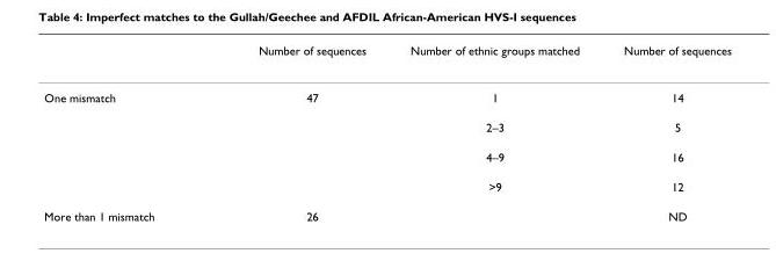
<table><thead><tr><td></td><td>Number of sequences</td><td>Number of ethnic groups matched</td><td>Number of sequences</td></tr></thead><tbody><tr><td rowspan="4">One mismatch</td><td>47</td><td>1</td><td>14</td></tr><tr><td></td><td>2–3</td><td>5</td></tr><tr><td></td><td>4–9</td><td>16</td></tr><tr><td></td><td>&gt;9</td><td>12</td></tr><tr><td>More than 1 mismatch</td><td>26</td><td></td><td>ND</td></tr></tbody></table>